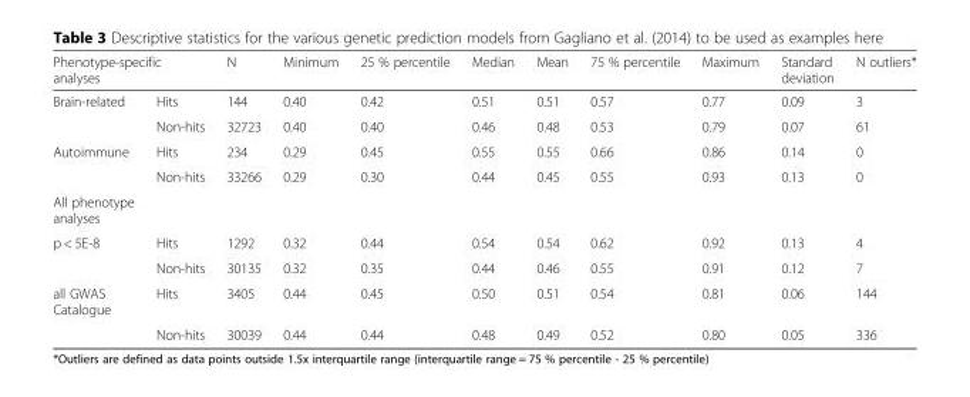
<table><thead><tr><td colspan="2">Phenotype-specific analyses</td><td rowspan="2">N 144</td><td rowspan="2">Minimum 0.40</td><td rowspan="2">25 % percentile 0.42</td><td rowspan="2">Median 0.51</td><td rowspan="2">Mean 0.51</td><td rowspan="2">75 % percentile 0.57</td><td rowspan="2">Maximum 0.77</td><td rowspan="2">Standard deviation 0.09</td><td rowspan="2">N outliers* 3</td></tr><tr><td>Brain-related</td><td>Hits</td></tr></thead><tbody><tr><td></td><td>Non-hits</td><td>32723</td><td>0.40</td><td>0.40</td><td>0.46</td><td>0.48</td><td>0.53</td><td>0.79</td><td>0.07</td><td>61</td></tr><tr><td rowspan="2">Autoimmune</td><td>Hits</td><td>234</td><td>0.29</td><td>0.45</td><td>0.55</td><td>0.55</td><td>0.66</td><td>0.86</td><td>0.14</td><td>0</td></tr><tr><td>Non-hits</td><td>33266</td><td>0.29</td><td>0.30</td><td>0.44</td><td>0.45</td><td>0.55</td><td>0.93</td><td>0.13</td><td>0</td></tr><tr><td colspan="11">All phenotype analyses</td></tr><tr><td rowspan="2">p &lt; 5E-8</td><td>Hits</td><td>1292</td><td>0.32</td><td>0.44</td><td>0.54</td><td>0.54</td><td>0.62</td><td>0.92</td><td>0.13</td><td>4</td></tr><tr><td>Non-hits</td><td>30135</td><td>0.32</td><td>0.35</td><td>0.44</td><td>0.46</td><td>0.55</td><td>0.91</td><td>0.12</td><td>7</td></tr><tr><td rowspan="2">all GWAS Catalogue</td><td>Hits</td><td>3405</td><td>0.44</td><td>0.45</td><td>0.50</td><td>0.51</td><td>0.54</td><td>0.81</td><td>0.06</td><td>144</td></tr><tr><td>Non-hits</td><td>30039</td><td>0.44</td><td>0.44</td><td>0.48</td><td>0.49</td><td>0.52</td><td>0.80</td><td>0.05</td><td>336</td></tr></tbody></table>